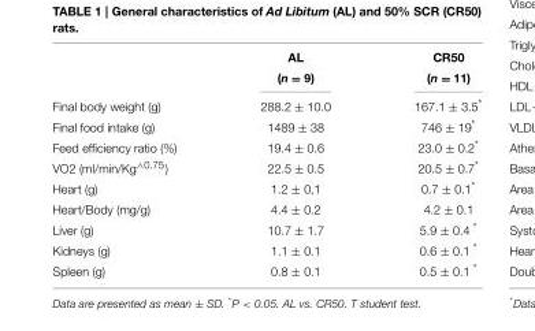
<table><thead><tr><td rowspan="2"></td><td rowspan="2">AL (n = 9)</td><td rowspan="2">CR50 (n = 11)</td></tr><tr></tr></thead><tbody><tr><td>Final body weight (g)</td><td>288.2 ± 10.0</td><td>167.1 ± 3.5*</td></tr><tr><td>Final food intake (g)</td><td>1489 ± 38</td><td>746 ± 19*</td></tr><tr><td>Feed efficiency ratio (%)</td><td>19.4 ± 0.6</td><td>23.0 ± 0.2*</td></tr><tr><td>VO2 (ml/min/Kg<sup>∧0.75</sup>)</td><td>22.5 ± 0.5</td><td>20.5 ± 0.7*</td></tr><tr><td>Heart (g)</td><td>1.2 ± 0,1</td><td>0.7 ± 0.1*</td></tr><tr><td>Heart/Body (mg/g)</td><td>4.4 ± 0.2</td><td>4.2 ± 0.1</td></tr><tr><td>Liver (g)</td><td>10.7 ± 1.7</td><td>5.9 ± 0.4 *</td></tr><tr><td>Kidneys (g)</td><td>1.1 ± 0.1</td><td>0.6 ± 0.1 *</td></tr><tr><td>Spleen (g)</td><td>0.8 ± 0.1</td><td>0.5 ± 0.1 *</td></tr></tbody></table>